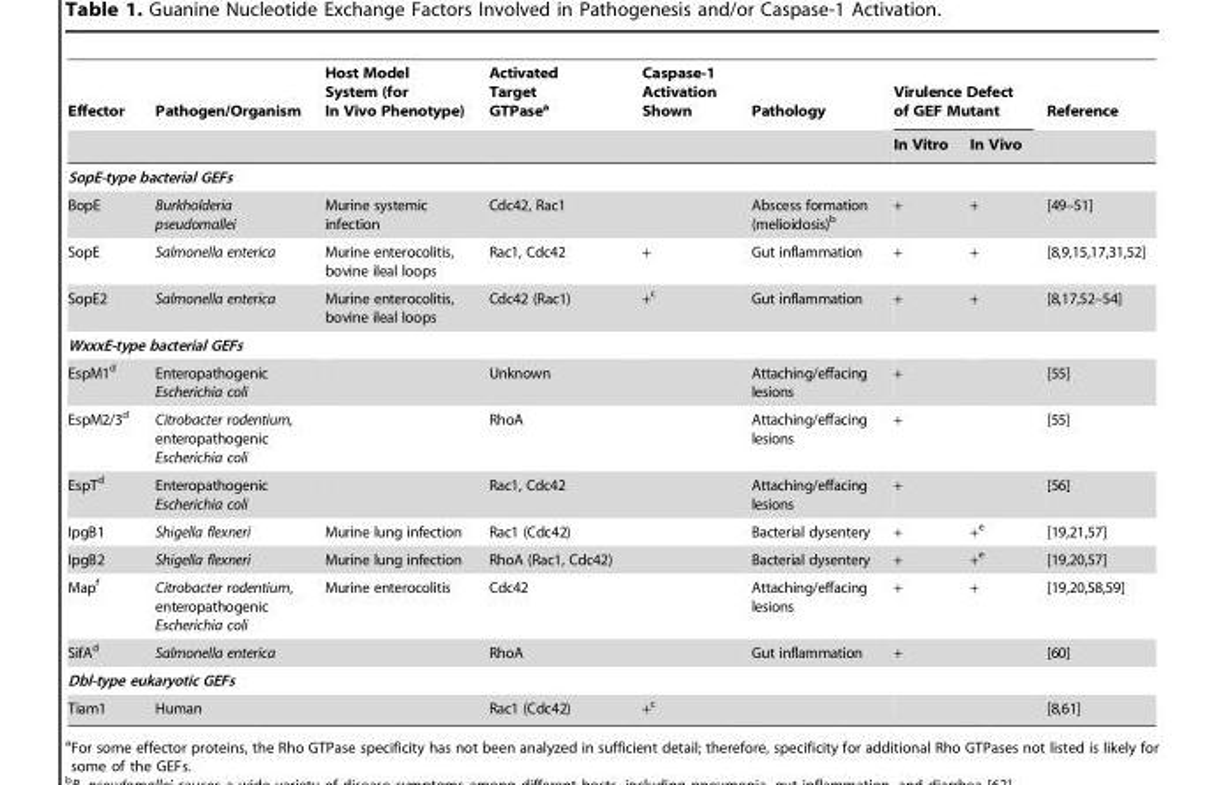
<table><thead><tr><td rowspan="2">Effector</td><td rowspan="2">Pathogen/Organism</td><td rowspan="2">Host Model System (for In Vivo Phenotype)</td><td rowspan="2">Activated Target GTPase<sup>a</sup></td><td rowspan="2">Caspase-1 Activation Shown</td><td rowspan="2">Pathology</td><td colspan="2">Virulence Defect of GEF Mutant</td><td rowspan="2">Reference</td></tr><tr><td>In Vitro</td><td>In Vivo</td></tr></thead><tbody><tr><td colspan="9">SopE-type bacterial GEFs</td></tr><tr><td>BopE</td><td>Burkholderia pseudomallei</td><td>Murine systemic infection</td><td>Cdc42, Rac1</td><td></td><td>Abscess formation (melioidosis)<sup>b</sup></td><td>+</td><td>+</td><td>[49–51]</td></tr><tr><td>SopE</td><td>Salmonella enterica</td><td>Murine enterocolitis, bovine ileal loops</td><td>Rac1, Cdc42</td><td>+</td><td>Gut inflammation</td><td>+</td><td>+</td><td>[8,9,15,17,31,52]</td></tr><tr><td>SopE2</td><td>Salmonella enterica</td><td>Murine enterocolitis, bovine ileal loops</td><td>Cdc42 (Rac1)</td><td>+<sup>c</sup></td><td>Gut inflammation</td><td>+</td><td>+</td><td>[8,17,52–54]</td></tr><tr><td colspan="9">WxxxE-type bacterial GEFs</td></tr><tr><td>EspM1<sup>d</sup></td><td>Enteropathogenic Escherichia coli</td><td></td><td>Unknown</td><td></td><td>Attaching/effacing lesions</td><td>+</td><td></td><td>[55]</td></tr><tr><td>EspM2/3<sup>d</sup></td><td>Citrobacter rodentium, enteropathogenic Escherichia coli</td><td></td><td>RhoA</td><td></td><td>Attaching/effacing lesions</td><td>+</td><td></td><td>[55]</td></tr><tr><td>EspT<sup>d</sup></td><td>Enteropathogenic Escherichia coli</td><td></td><td>Rac1, Cdc42</td><td></td><td>Attaching/effacing lesions</td><td>+</td><td></td><td>[56]</td></tr><tr><td>IpgB1</td><td>Shigella flexneri</td><td>Murine lung infection</td><td>Rac1 (Cdc42)</td><td></td><td>Bacterial dysentery</td><td>+</td><td>+<sup>e</sup></td><td>[19,21,57]</td></tr><tr><td>IpgB2</td><td>Shigella flexneri</td><td>Murine lung infection</td><td>RhoA (Rac1, Cdc42)</td><td></td><td>Bacterial dysentery</td><td>+</td><td>+<sup>e</sup></td><td>[19,20,57]</td></tr><tr><td>Map<sup>f</sup></td><td>Citrobacter rodentium, enteropathogenic Escherichia coli</td><td>Murine enterocolitis</td><td>Cdc42</td><td></td><td>Attaching/effacing lesions</td><td>+</td><td>+</td><td>[19,20,58,59]</td></tr><tr><td>SifA<sup>d</sup></td><td>Salmonella enterica</td><td></td><td>RhoA</td><td></td><td>Gut inflammation</td><td>+</td><td></td><td>[60]</td></tr><tr><td colspan="9">Dbl-type eukaryotic GEFs</td></tr><tr><td>Tiam1</td><td>Human</td><td></td><td>Rac1 (Cdc42)</td><td>+<sup>c</sup></td><td></td><td></td><td></td><td>[8,61]</td></tr></tbody></table>